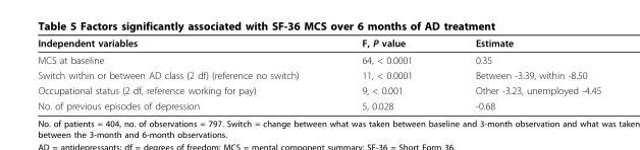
<table><thead><tr><td>Independent variables</td><td>F, P value</td><td>Estimate</td></tr></thead><tbody><tr><td>MCS at baseline</td><td>64, &lt; 0.0001</td><td>0.35</td></tr><tr><td>Switch within or between AD class (2 df) (reference no switch)</td><td>11, &lt; 0.0001</td><td>Between -3.39, within -8.50</td></tr><tr><td>Occupational status (2 df, reference working for pay)</td><td>9, &lt; 0.001</td><td>Other -3.23, unemployed -4.45</td></tr><tr><td>No. of previous episodes of depression</td><td>5, 0.028</td><td>-0.68</td></tr></tbody></table>